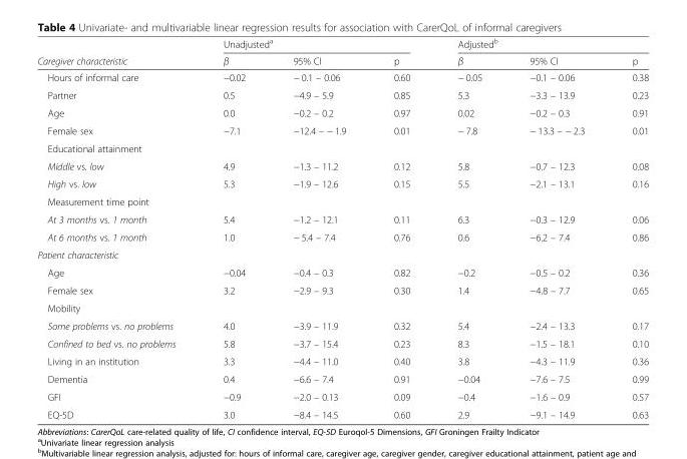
<table><thead><tr><td rowspan="2">Caregiver characteristic</td><td colspan="3">Unadjusted<sup>a</sup></td><td colspan="3">Adjusted<sup>b</sup></td></tr><tr><td>β</td><td>95% CI</td><td>p</td><td>β</td><td>95% CI</td><td>p</td></tr></thead><tbody><tr><td>Hours of informal care</td><td>−0.02</td><td>− 0.1 – 0.06</td><td>0.60</td><td>− 0.05</td><td>−0.1 – 0.06</td><td>0.38</td></tr><tr><td>Partner</td><td>0.5</td><td>−4.9 – 5.9</td><td>0.85</td><td>5.3</td><td>−3.3 – 13.9</td><td>0.23</td></tr><tr><td>Age</td><td>0.0</td><td>−0.2 – 0.2</td><td>0.97</td><td>0.02</td><td>−0.2 – 0.3</td><td>0.91</td></tr><tr><td>Female sex</td><td>−7.1</td><td>−12.4 – − 1.9</td><td>0.01</td><td>− 7.8</td><td>− 13.3 – − 2.3</td><td>0.01</td></tr><tr><td colspan="7">Educational attainment</td></tr><tr><td>Middle vs. low</td><td>4.9</td><td>−1.3 – 11.2</td><td>0.12</td><td>5.8</td><td>−0.7 – 12.3</td><td>0.08</td></tr><tr><td>High vs. low</td><td>5.3</td><td>−1.9 – 12.6</td><td>0.15</td><td>5.5</td><td>−2.1 – 13.1</td><td>0.16</td></tr><tr><td colspan="7">Measurement time point</td></tr><tr><td>At 3 months vs. 1 month</td><td>5.4</td><td>−1.2 – 12.1</td><td>0.11</td><td>6.3</td><td>−0.3 – 12.9</td><td>0.06</td></tr><tr><td>At 6 months vs. 1 month</td><td>1.0</td><td>− 5.4 – 7.4</td><td>0.76</td><td>0.6</td><td>−6.2 – 7.4</td><td>0.86</td></tr><tr><td colspan="7">Patient characteristic</td></tr><tr><td>Age</td><td>−0.04</td><td>−0.4 – 0.3</td><td>0.82</td><td>−0.2</td><td>−0.5 – 0.2</td><td>0.36</td></tr><tr><td>Female sex</td><td>3.2</td><td>−2.9 – 9.3</td><td>0.30</td><td>1.4</td><td>−4.8 – 7.7</td><td>0.65</td></tr><tr><td colspan="7">Mobility</td></tr><tr><td>Some problems vs. no problems</td><td>4.0</td><td>−3.9 – 11.9</td><td>0.32</td><td>5.4</td><td>−2.4 – 13.3</td><td>0.17</td></tr><tr><td>Confined to bed vs. no problems</td><td>5.8</td><td>−3.7 – 15.4</td><td>0.23</td><td>8.3</td><td>−1.5 – 18.1</td><td>0.10</td></tr><tr><td>Living in an institution</td><td>3.3</td><td>−4.4 – 11.0</td><td>0.40</td><td>3.8</td><td>−4.3 – 11.9</td><td>0.36</td></tr><tr><td>Dementia</td><td>0.4</td><td>−6.6 – 7.4</td><td>0.91</td><td>−0.04</td><td>−7.6 – 7.5</td><td>0.99</td></tr><tr><td>GFI</td><td>−0.9</td><td>−2.0 – 0.13</td><td>0.09</td><td>−0.4</td><td>−1.6 – 0.9</td><td>0.57</td></tr><tr><td>EQ-5D</td><td>3.0</td><td>−8.4 – 14.5</td><td>0.60</td><td>2.9</td><td>−9.1 – 14.9</td><td>0.63</td></tr></tbody></table>